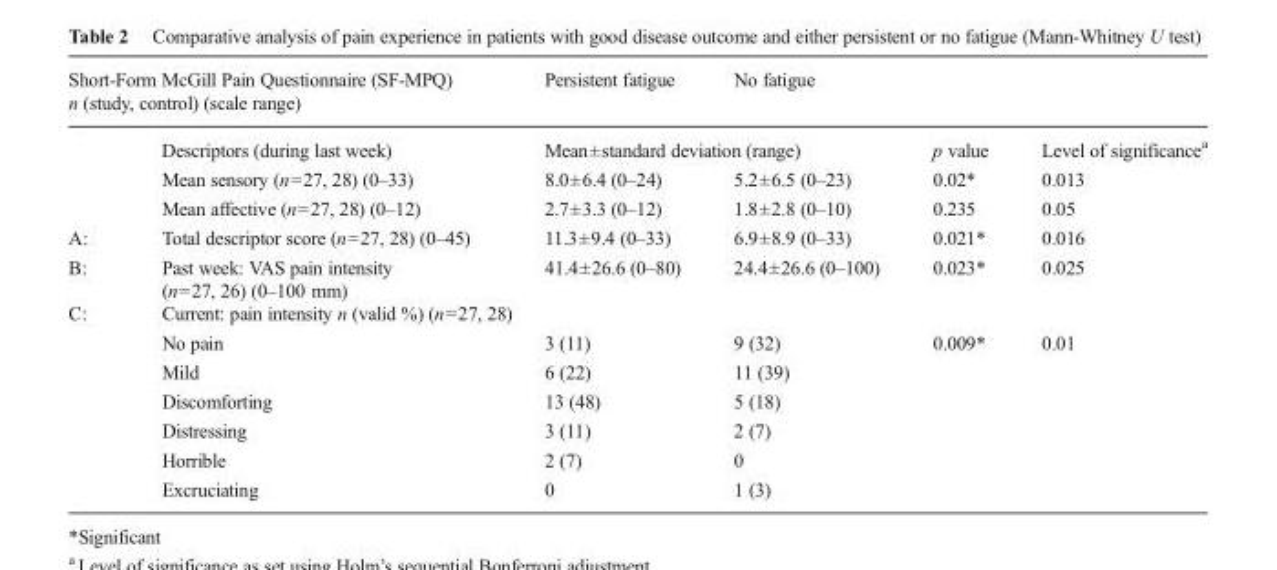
<table><thead><tr><td colspan="2">Short-Form McGill Pain Questionnaire (SF-MPQ) n (study, control) (scale range)</td><td>Persistent fatigue</td><td>No fatigue</td><td rowspan="2">p value</td><td rowspan="2">Level of significance<sup>a</sup></td></tr><tr><td></td><td>Descriptors (during last week)</td><td colspan="2">Mean±standard deviation (range)</td></tr></thead><tbody><tr><td></td><td>Mean sensory (n=27, 28) (0–33)</td><td>8.0±6.4 (0–24)</td><td>5.2±6.5 (0–23)</td><td>0.02*</td><td>0.013</td></tr><tr><td></td><td>Mean affective (n=27, 28) (0–12)</td><td>2.7±3.3 (0–12)</td><td>1.8±2.8 (0–10)</td><td>0.235</td><td>0.05</td></tr><tr><td>A:</td><td>Total descriptor score (n=27, 28) (0–45)</td><td>11.3±9.4 (0–33)</td><td>6.9±8.9 (0–33)</td><td>0.021*</td><td>0.016</td></tr><tr><td>B:</td><td>Past week: VAS pain intensity (n=27, 26) (0–100 mm)</td><td>41.4±26.6 (0–80)</td><td>24.4±26.6 (0–100)</td><td>0.023*</td><td>0.025</td></tr><tr><td rowspan="7">C:</td><td colspan="5">Current: pain intensity n (valid %) (n=27, 28)</td></tr><tr><td>No pain</td><td>3 (11)</td><td>9 (32)</td><td rowspan="6">0.009*</td><td>0.01</td></tr><tr><td>Mild</td><td>6 (22)</td><td>11 (39)</td><td></td></tr><tr><td>Discomforting</td><td>13 (48)</td><td>5 (18)</td><td></td></tr><tr><td>Distressing</td><td>3 (11)</td><td>2 (7)</td><td></td></tr><tr><td>Horrible</td><td>2 (7)</td><td>0</td><td></td></tr><tr><td>Excruciating</td><td>0</td><td>1 (3)</td><td></td></tr></tbody></table>